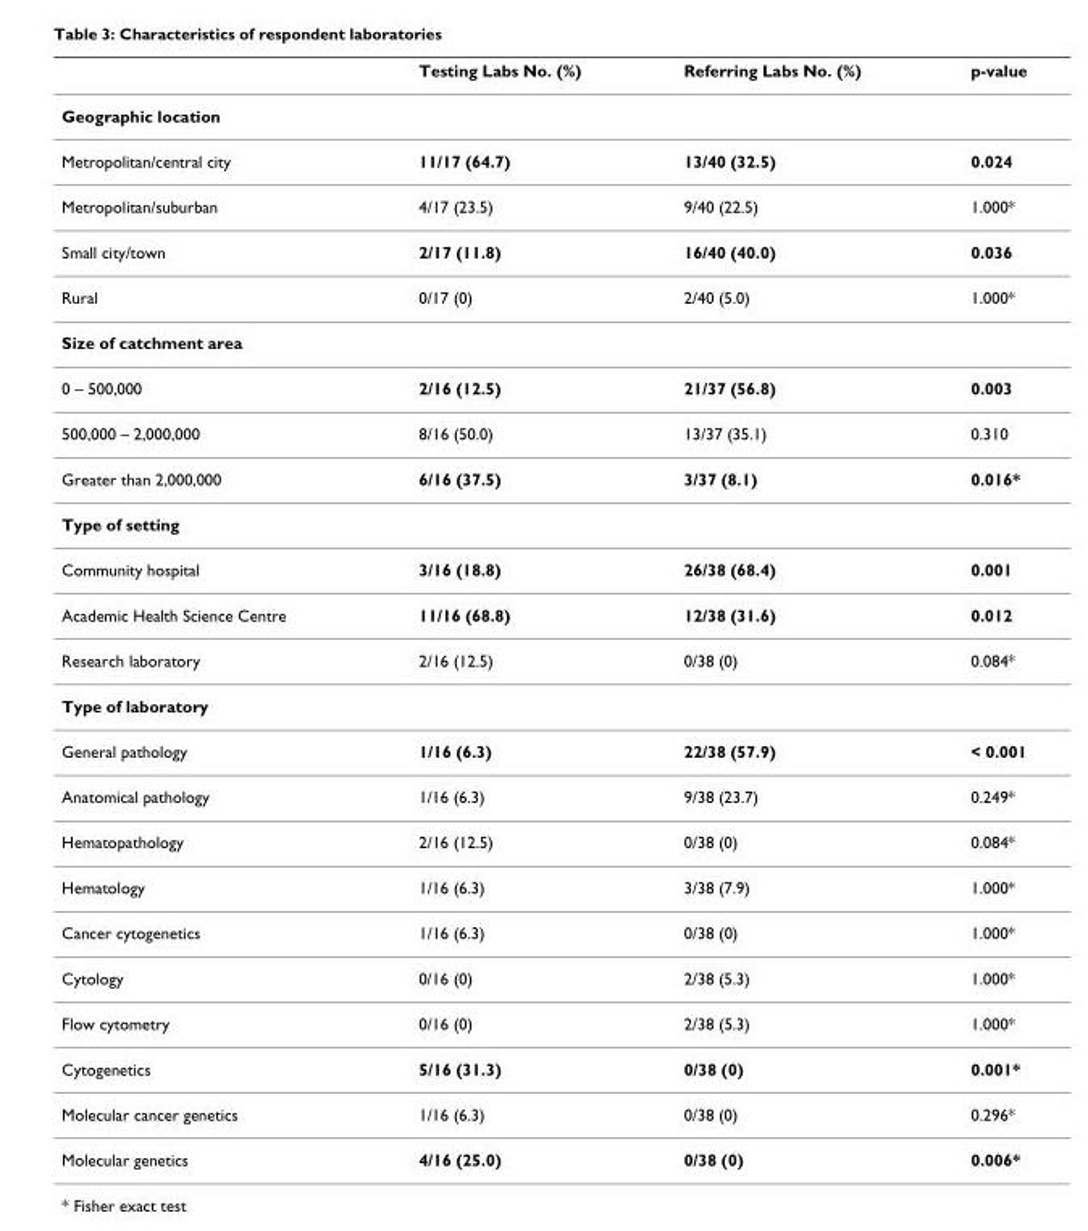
<table><thead><tr><td></td><td>Testing Labs No. (%)</td><td>Referring Labs No. (%)</td><td>p-value</td></tr></thead><tbody><tr><td colspan="4">Geographic location</td></tr><tr><td>Metropolitan/central city</td><td>11/17 (64.7)</td><td>13/40 (32.5)</td><td>0.024</td></tr><tr><td>Metropolitan/suburban</td><td>4/17 (23.5)</td><td>9/40 (22.5)</td><td>1.000*</td></tr><tr><td>Small city/town</td><td>2/17 (11.8)</td><td>16/40 (40.0)</td><td>0.036</td></tr><tr><td>Rural</td><td>0/17 (0)</td><td>2/40 (5.0)</td><td>1.000*</td></tr><tr><td colspan="4">Size of catchment area</td></tr><tr><td>0 – 500,000</td><td>2/16 (12.5)</td><td>21/37 (56.8)</td><td>0.003</td></tr><tr><td>500,000 – 2,000,000</td><td>8/16 (50.0)</td><td>13/37 (35.1)</td><td>0.310</td></tr><tr><td>Greater than 2,000,000</td><td>6/16 (37.5)</td><td>3/37 (8.1)</td><td>0.016*</td></tr><tr><td colspan="4">Type of setting</td></tr><tr><td>Community hospital</td><td>3/16 (18.8)</td><td>26/38 (68.4)</td><td>0.001</td></tr><tr><td>Academic Health Science Centre</td><td>11/16 (68.8)</td><td>12/38 (31.6)</td><td>0.012</td></tr><tr><td>Research laboratory</td><td>2/16 (12.5)</td><td>0/38 (0)</td><td>0.084*</td></tr><tr><td colspan="4">Type of laboratory</td></tr><tr><td>General pathology</td><td>1/16 (6.3)</td><td>22/38 (57.9)</td><td>&lt; 0.001</td></tr><tr><td>Anatomical pathology</td><td>1/16 (6.3)</td><td>9/38 (23.7)</td><td>0.249*</td></tr><tr><td>Hematopathology</td><td>2/16 (12.5)</td><td>0/38 (0)</td><td>0.084*</td></tr><tr><td>Hematology</td><td>1/16 (6.3)</td><td>3/38 (7.9)</td><td>1.000*</td></tr><tr><td>Cancer cytogenetics</td><td>1/16 (6.3)</td><td>0/38 (0)</td><td>1.000*</td></tr><tr><td>Cytology</td><td>0/16 (0)</td><td>2/38 (5.3)</td><td>1.000*</td></tr><tr><td>Flow cytometry</td><td>0/16 (0)</td><td>2/38 (5.3)</td><td>1.000*</td></tr><tr><td>Cytogenetics</td><td>5/16 (31.3)</td><td>0/38 (0)</td><td>0.001*</td></tr><tr><td>Molecular cancer genetics</td><td>1/16 (6.3)</td><td>0/38 (0)</td><td>0.296*</td></tr><tr><td>Molecular genetics</td><td>4/16 (25.0)</td><td>0/38 (0)</td><td>0.006*</td></tr></tbody></table>